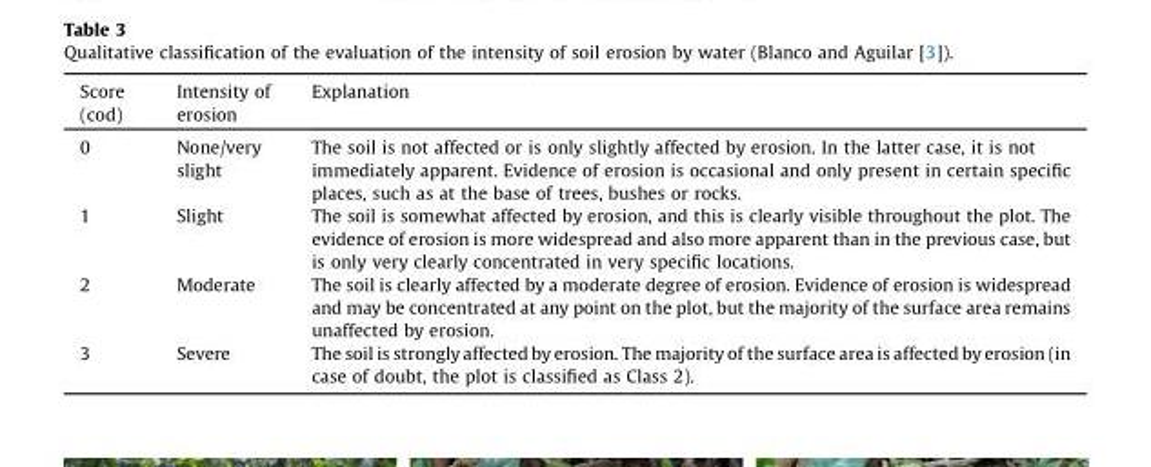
<table><thead><tr><td>Score (cod)</td><td>Intensity of erosion</td><td>Explanation</td></tr></thead><tbody><tr><td>0</td><td>None/very slight</td><td>The soil is not affected or is only slightly affected by erosion. In the latter case, it is not immediately apparent. Evidence of erosion is occasional and only present in certain specific places, such as at the base of trees, bushes or rocks.</td></tr><tr><td>1</td><td>Slight</td><td>The soil is somewhat affected by erosion, and this is clearly visible throughout the plot. The evidence of erosion is more widespread and also more apparent than in the previous case, but is only very clearly concentrated in very specific locations.</td></tr><tr><td>2</td><td>Moderate</td><td>The soil is clearly affected by a moderate degree of erosion. Evidence of erosion is widespread and may be concentrated at any point on the plot, but the majority of the surface area remains unaffected by erosion.</td></tr><tr><td>3</td><td>Severe</td><td>The soil is strongly affected by erosion. The majority of the surface area is affected by erosion (in case of doubt, the plot is classified as Class 2).</td></tr></tbody></table>